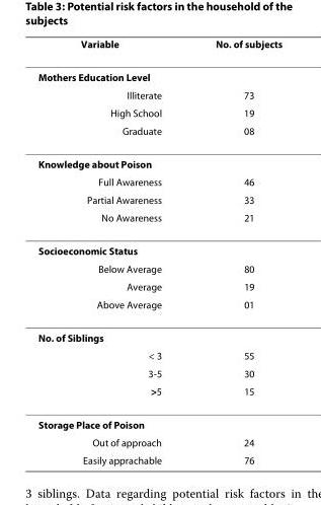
<table><thead><tr><td>Variable</td><td>No. of subjects</td></tr></thead><tbody><tr><td colspan="2">Mothers Education Level</td></tr><tr><td>Illiterate</td><td>73</td></tr><tr><td>High School</td><td>19</td></tr><tr><td>Graduate</td><td>08</td></tr><tr><td colspan="2">Knowledge about Poison</td></tr><tr><td>Full Awareness</td><td>46</td></tr><tr><td>Partial Awareness</td><td>33</td></tr><tr><td>No Awareness</td><td>21</td></tr><tr><td colspan="2">Socioeconomic Status</td></tr><tr><td>Below Average</td><td>80</td></tr><tr><td>Average</td><td>19</td></tr><tr><td>Above Average</td><td>01</td></tr><tr><td colspan="2">No. of Siblings</td></tr><tr><td>&lt; 3</td><td>55</td></tr><tr><td>3-5</td><td>30</td></tr><tr><td>&gt;5</td><td>15</td></tr><tr><td colspan="2">Storage Place of Poison</td></tr><tr><td>Out of approach</td><td>24</td></tr><tr><td>Easily apprachable</td><td>76</td></tr></tbody></table>